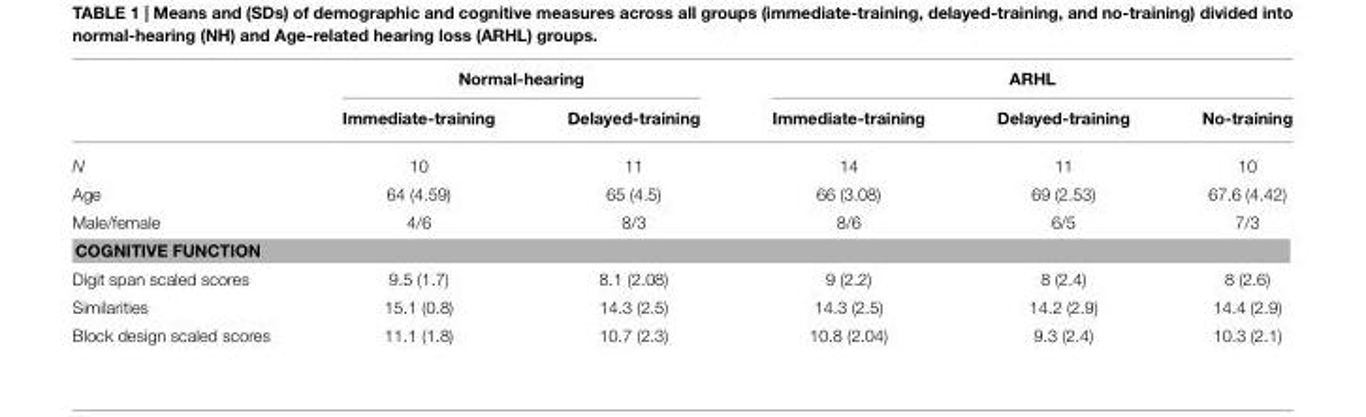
<table><thead><tr><td rowspan="2"></td><td colspan="2">Normal-hearing</td><td colspan="3">ARHL</td></tr><tr><td>Immediate-training</td><td>Delayed-training</td><td>Immediate-training</td><td>Delayed-training</td><td>No-training</td></tr></thead><tbody><tr><td>N</td><td>10</td><td>11</td><td>14</td><td>11</td><td>10</td></tr><tr><td>Age</td><td>64 (4.59)</td><td>65 (4.5)</td><td>66 (3.08)</td><td>69 (2.53)</td><td>67.6 (4.42)</td></tr><tr><td>Male/female</td><td>4/6</td><td>8/3</td><td>8/6</td><td>6/5</td><td>7/3</td></tr><tr><td colspan="6">COGNITIVE FUNCTION</td></tr><tr><td>Digit span scaled scores</td><td>9.5 (1.7)</td><td>8.1 (2.08)</td><td>9 (2.2)</td><td>8 (2.4)</td><td>8 (2.6)</td></tr><tr><td>Similarities</td><td>15.1 (0.8)</td><td>14.3 (2.5)</td><td>14.3 (2.5)</td><td>14.2 (2.9)</td><td>14.4 (2.9)</td></tr><tr><td>Block design scaled scores</td><td>11.1 (1.8)</td><td>10.7 (2.3)</td><td>10.8 (2.04)</td><td>9.3 (2.4)</td><td>10.3 (2.1)</td></tr></tbody></table>